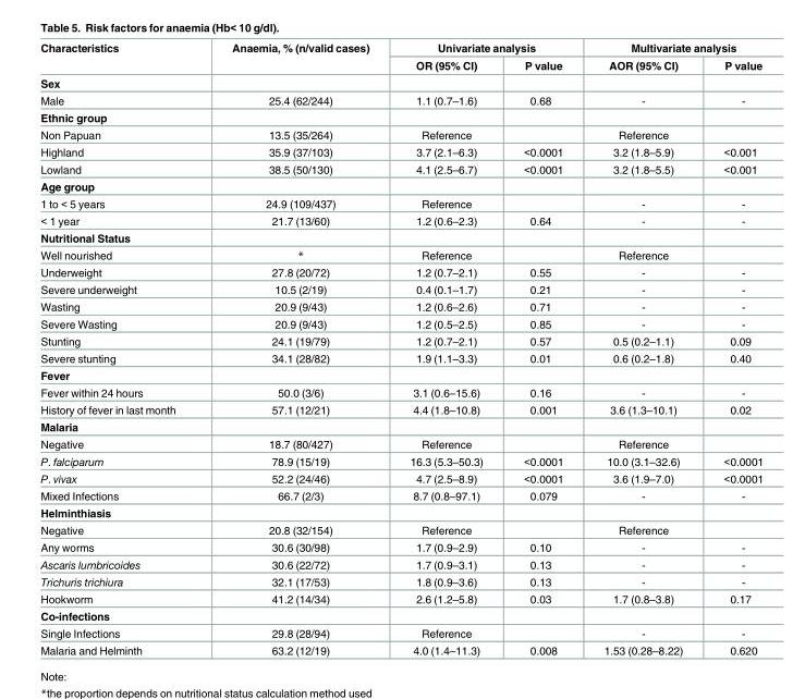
<table><thead><tr><td rowspan="2">Characteristics</td><td rowspan="2">Anaemia, % (n/valid cases)</td><td colspan="2">Univariate analysis</td><td colspan="2">Multivariate analysis</td></tr><tr><td>OR (95% CI)</td><td>P value</td><td>AOR (95% CI)</td><td>P value</td></tr></thead><tbody><tr><td colspan="6">Sex</td></tr><tr><td>Male</td><td>25.4 (62/244)</td><td>1.1 (0.7–1.6)</td><td>0.68</td><td>-</td><td>-</td></tr><tr><td colspan="6">Ethnic group</td></tr><tr><td>Non Papuan</td><td>13.5 (35/264)</td><td>Reference</td><td></td><td>Reference</td><td></td></tr><tr><td>Highland</td><td>35.9 (37/103)</td><td>3.7 (2.1–6.3)</td><td>&lt;0.0001</td><td>3.2 (1.8–5.9)</td><td>&lt;0.001</td></tr><tr><td>Lowland</td><td>38.5 (50/130)</td><td>4.1 (2.5–6.7)</td><td>&lt;0.0001</td><td>3.2 (1.8–5.5)</td><td>&lt;0.001</td></tr><tr><td colspan="6">Age group</td></tr><tr><td>1 to &lt; 5 years</td><td>24.9 (109/437)</td><td>Reference</td><td></td><td>-</td><td>-</td></tr><tr><td>&lt; 1 year</td><td>21.7 (13/60)</td><td>1.2 (0.6–2.3)</td><td>0.64</td><td>-</td><td>-</td></tr><tr><td colspan="6">Nutritional Status</td></tr><tr><td>Well nourished</td><td>*</td><td>Reference</td><td></td><td>Reference</td><td></td></tr><tr><td>Underweight</td><td>27.8 (20/72)</td><td>1.2 (0.7–2.1)</td><td>0.55</td><td>-</td><td>-</td></tr><tr><td>Severe underweight</td><td>10.5 (2/19)</td><td>0.4 (0.1–1.7)</td><td>0.21</td><td>-</td><td>-</td></tr><tr><td>Wasting</td><td>20.9 (9/43)</td><td>1.2 (0.6–2.6)</td><td>0.71</td><td>-</td><td>-</td></tr><tr><td>Severe Wasting</td><td>20.9 (9/43)</td><td>1.2 (0.5–2.5)</td><td>0.85</td><td>-</td><td>-</td></tr><tr><td>Stunting</td><td>24.1 (19/79)</td><td>1.2 (0.7–2.1)</td><td>0.57</td><td>0.5 (0.2–1.1)</td><td>0.09</td></tr><tr><td>Severe stunting</td><td>34.1 (28/82)</td><td>1.9 (1.1–3.3)</td><td>0.01</td><td>0.6 (0.2–1.8)</td><td>0.40</td></tr><tr><td colspan="6">Fever</td></tr><tr><td>Fever within 24 hours</td><td>50.0 (3/6)</td><td>3.1 (0.6–15.6)</td><td>0.16</td><td>-</td><td>-</td></tr><tr><td>History of fever in last month</td><td>57.1 (12/21)</td><td>4.4 (1.8–10.8)</td><td>0.001</td><td>3.6 (1.3–10.1)</td><td>0.02</td></tr><tr><td colspan="6">Malaria</td></tr><tr><td>Negative</td><td>18.7 (80/427)</td><td>Reference</td><td></td><td>Reference</td><td></td></tr><tr><td>P. falciparum</td><td>78.9 (15/19)</td><td>16.3 (5.3–50.3)</td><td>&lt;0.0001</td><td>10.0 (3.1–32.6)</td><td>&lt;0.0001</td></tr><tr><td>P. vivax</td><td>52.2 (24/46)</td><td>4.7 (2.5–8.9)</td><td>&lt;0.0001</td><td>3.6 (1.9–7.0)</td><td>&lt;0.0001</td></tr><tr><td>Mixed Infections</td><td>66.7 (2/3)</td><td>8.7 (0.8–97.1)</td><td>0.079</td><td>-</td><td>-</td></tr><tr><td colspan="6">Helminthiasis</td></tr><tr><td>Negative</td><td>20.8 (32/154)</td><td>Reference</td><td></td><td>Reference</td><td></td></tr><tr><td>Any worms</td><td>30.6 (30/98)</td><td>1.7 (0.9–2.9)</td><td>0.10</td><td>-</td><td>-</td></tr><tr><td>Ascaris lumbricoides</td><td>30.6 (22/72)</td><td>1.7 (0.9–3.1)</td><td>0.13</td><td>-</td><td>-</td></tr><tr><td>Trichuris trichiura</td><td>32.1 (17/53)</td><td>1.8 (0.9–3.6)</td><td>0.13</td><td>-</td><td>-</td></tr><tr><td>Hookworm</td><td>41.2 (14/34)</td><td>2.6 (1.2–5.8)</td><td>0.03</td><td>1.7 (0.8–3.8)</td><td>0.17</td></tr><tr><td colspan="6">Co-infections</td></tr><tr><td>Single Infections</td><td>29.8 (28/94)</td><td>Reference</td><td></td><td>-</td><td>-</td></tr><tr><td>Malaria and Helminth</td><td>63.2 (12/19)</td><td>4.0 (1.4–11.3)</td><td>0.008</td><td>1.53 (0.28–8.22)</td><td>0.620</td></tr></tbody></table>